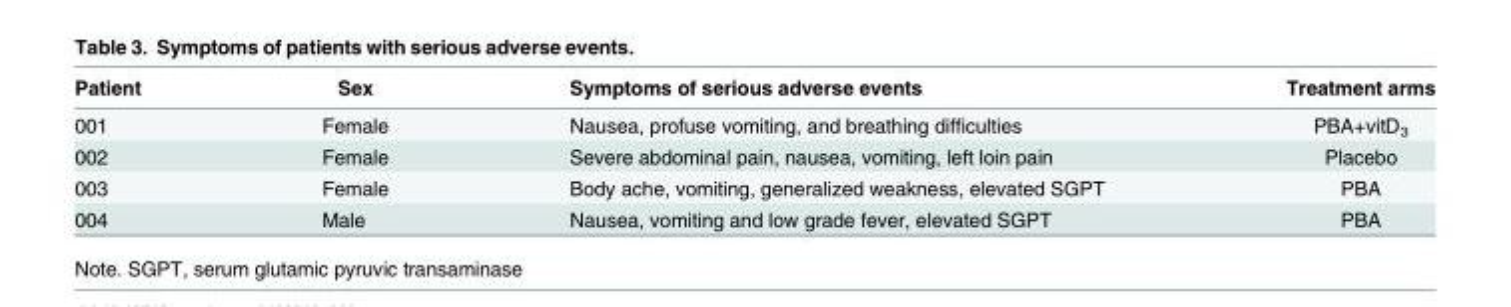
<table><thead><tr><td>Patient</td><td>Sex</td><td>Symptoms of serious adverse events</td><td>Treatment arms</td></tr></thead><tbody><tr><td>001</td><td>Female</td><td>Nausea, profuse vomiting, and breathing difficulties</td><td>PBA+vitD<sub>3</sub></td></tr><tr><td>002</td><td>Female</td><td>Severe abdominal pain, nausea, vomiting, left loin pain</td><td>Placebo</td></tr><tr><td>003</td><td>Female</td><td>Body ache, vomiting, generalized weakness, elevated SGPT</td><td>PBA</td></tr><tr><td>004</td><td>Male</td><td>Nausea, vomiting and low grade fever, elevated SGPT</td><td>PBA</td></tr></tbody></table>